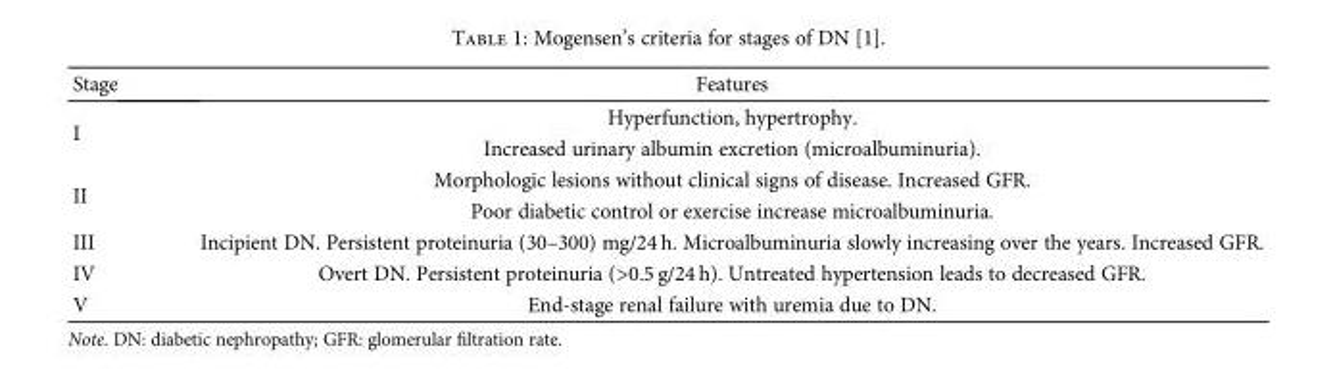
<table><thead><tr><td>Stage</td><td>Features</td></tr></thead><tbody><tr><td rowspan="2">I</td><td>Hyperfunction, hypertrophy.</td></tr><tr><td>Increased urinary albumin excretion (microalbuminuria).</td></tr><tr><td rowspan="2">II</td><td>Morphologic lesions without clinical signs of disease. Increased GFR.</td></tr><tr><td>Poor diabetic control or exercise increase microalbuminuria.</td></tr><tr><td>III</td><td>Incipient DN. Persistent proteinuria (30–300) mg/24 h. Microalbuminuria slowly increasing over the years. Increased GFR.</td></tr><tr><td>IV</td><td>Overt DN. Persistent proteinuria (&gt;0.5 g/24 h). Untreated hypertension leads to decreased GFR.</td></tr><tr><td>V</td><td>End-stage renal failure with uremia due to DN.</td></tr></tbody></table>